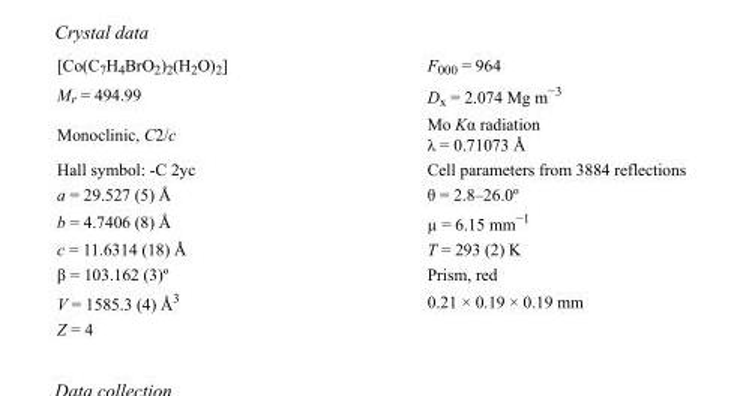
<table><tbody><tr><td>[Co(C<sub>7</sub>H<sub>4</sub>BrO<sub>2</sub>)<sub>2</sub>(H<sub>2</sub>O)<sub>2</sub>]</td><td>F000 = 964</td></tr><tr><td>M<sub>r</sub> = 494.99</td><td>D<sub>x</sub> = 2.074 Mg m<sup>−3</sup></td></tr><tr><td>Monoclinic, C2/c</td><td>Mo Kα radiation λ = 0.71073 Å</td></tr><tr><td>Hall symbol: -C 2yc</td><td>Cell parameters from 3884 reflections</td></tr><tr><td>a = 29.527 (5) Å</td><td>θ = 2.8–26.0º</td></tr><tr><td>b = 4.7406 (8) Å</td><td>µ = 6.15 mm<sup>−1</sup></td></tr><tr><td>c = 11.6314 (18) Å</td><td>T = 293 (2) K</td></tr><tr><td>β = 103.162 (3)º</td><td>Prism, red</td></tr><tr><td>V = 1585.3 (4) Å<sup>3</sup></td><td>0.21 × 0.19 × 0.19 mm</td></tr><tr><td>Z = 4</td><td></td></tr></tbody></table>